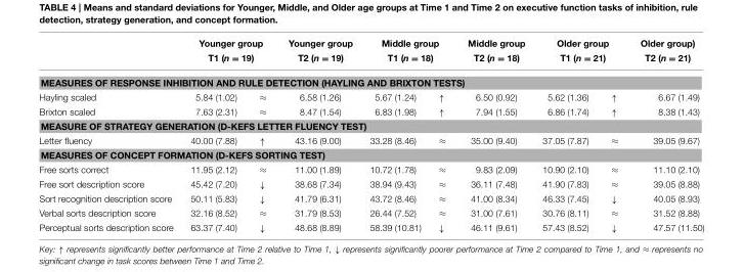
<table><thead><tr><td rowspan="2"></td><td rowspan="2" colspan="2">Younger group T1 (n = 19)</td><td rowspan="2">Younger group T2 (n = 19)</td><td rowspan="2" colspan="2">Middle group T1 (n = 18)</td><td rowspan="2">Middle group T2 (n = 18)</td><td rowspan="2" colspan="2">Older group T1 (n = 21)</td><td rowspan="2">Older group) T2 (n = 21)</td></tr><tr></tr><tr><td colspan="10">MEASURES OF RESPONSE INHIBITION AND RULE DETECTION (HAYLING AND BRIXTON TESTS)</td></tr><tr><td>Hayling scaled</td><td>5.84 (1.02)</td><td>≈</td><td>6.58 (1.26)</td><td>5.67 (1.24)</td><td>↑</td><td>6.50 (0.92)</td><td>5.62 (1.36)</td><td>↑</td><td>6.67 (1.49)</td></tr></thead><tbody><tr><td>Brixton scaled</td><td>7.63 (2.31)</td><td>≈</td><td>8.47 (1.54)</td><td>6.83 (1.98)</td><td>↑</td><td>7.94 (1.55)</td><td>6.86 (1.74)</td><td>↑</td><td>8.38 (1.43)</td></tr><tr><td colspan="10">MEASURE OF STRATEGY GENERATION (D-KEFS LETTER FLUENCY TEST)</td></tr><tr><td>Letter fluency</td><td>40.00 (7.88)</td><td>↑</td><td>43.16 (9.00)</td><td>33.28 (8.46)</td><td>≈</td><td>35.00 (9.40)</td><td>37.05 (7.87)</td><td>≈</td><td>39.05 (9.67)</td></tr><tr><td colspan="10">MEASURES OF CONCEPT FORMATION (D-KEFS SORTING TEST)</td></tr><tr><td>Free sorts correct</td><td>11.95 (2.12)</td><td>≈</td><td>11.00 (1.89)</td><td>10.72 (1.78)</td><td>≈</td><td>9.83 (2.09)</td><td>10.90 (2.10)</td><td>≈</td><td>11.10 (2.10)</td></tr><tr><td>Free sort description score</td><td>45.42 (7.20)</td><td>↓</td><td>38.68 (7.34)</td><td>38.94 (9.43)</td><td>≈</td><td>36.11 (7.48)</td><td>41.90 (7.83)</td><td>≈</td><td>39.05 (8.88)</td></tr><tr><td>Sort recognition description score</td><td>50.11 (5.83)</td><td>↓</td><td>41.79 (6.31)</td><td>43.72 (8.46)</td><td>≈</td><td>41.00 (8.34)</td><td>46.33 (7.45)</td><td>↓</td><td>40.05 (8.93)</td></tr><tr><td>Verbal sorts description score</td><td>32.16 (8.52)</td><td>≈</td><td>31.79 (8.53)</td><td>26.44 (7.52)</td><td>≈</td><td>31.00 (7.61)</td><td>30.76 (8.11)</td><td>≈</td><td>31.52 (8.88)</td></tr><tr><td>Perceptual sorts description score</td><td>63.37 (7.40)</td><td>↓</td><td>48.68 (8.89)</td><td>58.39 (10.81)</td><td>↓</td><td>46.11 (9.61)</td><td>57.43 (8.52)</td><td>↓</td><td>47.57 (11.50)</td></tr></tbody></table>